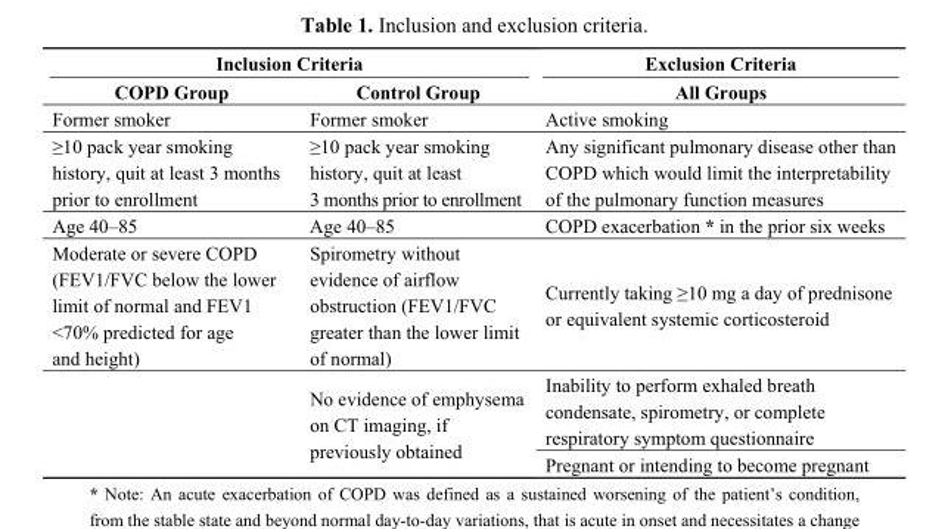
<table><thead><tr><td colspan="2">Inclusion Criteria</td><td rowspan="2">Exclusion Criteria All Groups</td></tr><tr><td>COPD Group</td><td>Control Group</td></tr></thead><tbody><tr><td>Former smoker</td><td>Former smoker</td><td>Active smoking</td></tr><tr><td>≥10 pack year smoking history, quit at least 3 months prior to enrollment</td><td>≥10 pack year smoking history, quit at least 3 months prior to enrollment</td><td>Any significant pulmonary disease other than COPD which would limit the interpretability of the pulmonary function measures</td></tr><tr><td>Age 40–85</td><td>Age 40–85</td><td>COPD exacerbation * in the prior six weeks</td></tr><tr><td rowspan="3">Moderate or severe COPD (FEV1/FVC below the lower limit of normal and FEV1 &lt;70% predicted for age and height)</td><td>Spirometry without evidence of airflow obstruction (FEV1/FVC greater than the lower limit of normal)</td><td>Currently taking ≥10 mg a day of prednisone or equivalent systemic corticosteroid</td></tr><tr><td rowspan="2">No evidence of emphysema on CT imaging, if previously obtained</td><td>Inability to perform exhaled breath condensate, spirometry, or complete respiratory symptom questionnaire</td></tr><tr><td>Pregnant or intending to become pregnant</td></tr></tbody></table>